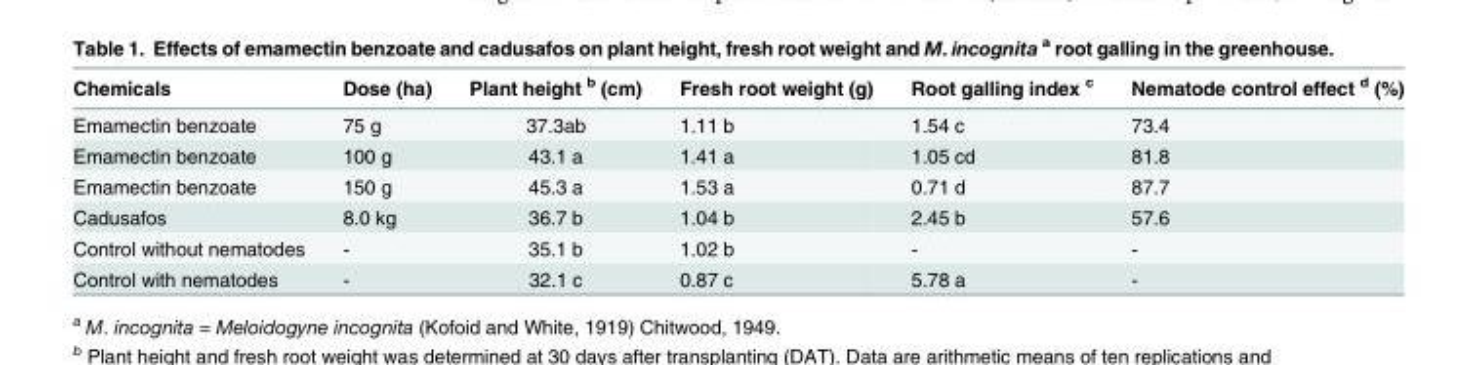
<table><thead><tr><td>Chemicals</td><td>Dose (ha)</td><td>Plant height <sup>b</sup> (cm)</td><td>Fresh root weight (g)</td><td>Root galling index <sup>c</sup></td><td>Nematode control effect <sup>d</sup> (%)</td></tr></thead><tbody><tr><td>Emamectin benzoate</td><td>75 g</td><td>37.3ab</td><td>1.11 b</td><td>1.54 c</td><td>73.4</td></tr><tr><td>Emamectin benzoate</td><td>100 g</td><td>43.1 a</td><td>1.41 a</td><td>1.05 cd</td><td>81.8</td></tr><tr><td>Emamectin benzoate</td><td>150 g</td><td>45.3 a</td><td>1.53 a</td><td>0.71 d</td><td>87.7</td></tr><tr><td>Cadusafos</td><td>8.0 kg</td><td>36.7 b</td><td>1.04 b</td><td>2.45 b</td><td>57.6</td></tr><tr><td>Control without nematodes</td><td>-</td><td>35.1 b</td><td>1.02 b</td><td>-</td><td>-</td></tr><tr><td>Control with nematodes</td><td>-</td><td>32.1 c</td><td>0.87 c</td><td>5.78 a</td><td>-</td></tr></tbody></table>